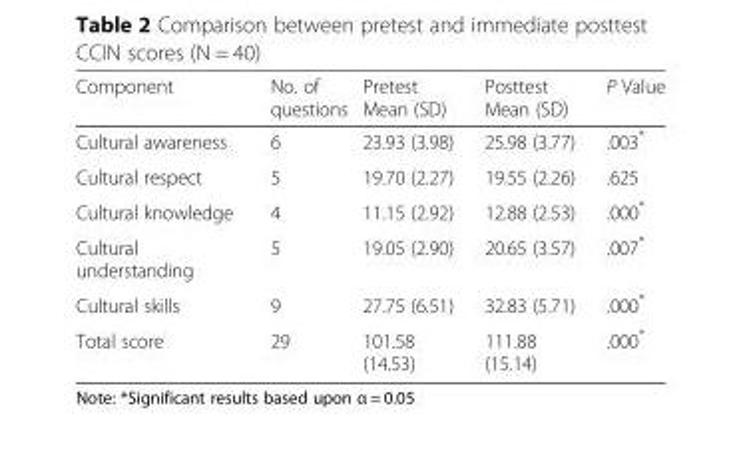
<table><thead><tr><td>Component</td><td>No. of questions</td><td>Pretest Mean (SD)</td><td>Posttest Mean (SD)</td><td>P Value</td></tr></thead><tbody><tr><td>Cultural awareness</td><td>6</td><td>23.93 (3.98)</td><td>25.98 (3.77)</td><td>.003*</td></tr><tr><td>Cultural respect</td><td>5</td><td>19.70 (2.27)</td><td>19.55 (2.26)</td><td>.625</td></tr><tr><td>Cultural knowledge</td><td>4</td><td>11.15 (2.92)</td><td>12.88 (2.53)</td><td>.000*</td></tr><tr><td>Cultural understanding</td><td>5</td><td>19.05 (2.90)</td><td>20.65 (3.57)</td><td>.007*</td></tr><tr><td>Cultural skills</td><td>9</td><td>27.75 (6.51)</td><td>32.83 (5.71)</td><td>.000*</td></tr><tr><td>Total score</td><td>29</td><td>101.58 (14.53)</td><td>111.88 (15.14)</td><td>.000*</td></tr></tbody></table>